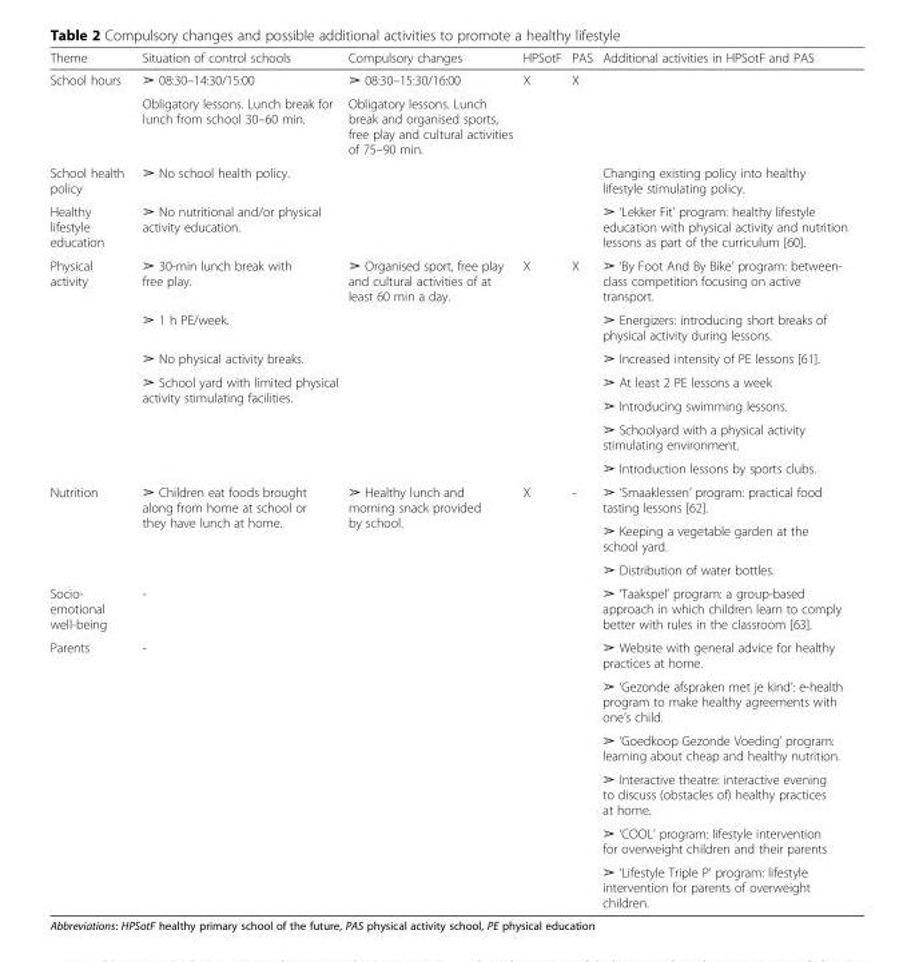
<table><thead><tr><td>Theme</td><td>Situation of control schools</td><td>Compulsory changes</td><td>HPSotF</td><td>PAS</td><td>Additional activities in HPSotF and PAS</td></tr></thead><tbody><tr><td rowspan="2">School hours</td><td>➢ 08:30–14:30/15:00</td><td>➢ 08:30–15:30/16:00</td><td>X</td><td>X</td><td></td></tr><tr><td>Obligatory lessons. Lunch break for lunch from school 30–60 min.</td><td>Obligatory lessons. Lunch break and organised sports, free play and cultural activities of 75–90 min.</td><td></td><td></td><td></td></tr><tr><td>School health policy</td><td>➢ No school health policy.</td><td></td><td></td><td></td><td>Changing existing policy into healthy lifestyle stimulating policy.</td></tr><tr><td>Healthy lifestyle education</td><td>➢ No nutritional and/or physical activity education.</td><td></td><td></td><td></td><td>➢ ‘Lekker Fit’ program: healthy lifestyle education with physical activity and nutrition lessons as part of the curriculum [60].</td></tr><tr><td rowspan="7">Physical activity</td><td>➢ 30-min lunch break with free play.</td><td>➢ Organised sport, free play and cultural activities of at least 60 min a day.</td><td>X</td><td>X</td><td>➢ ‘By Foot And By Bike’ program: between- class competition focusing on active transport.</td></tr><tr><td>➢ 1 h PE/week.</td><td></td><td></td><td></td><td>➢ Energizers: introducing short breaks of physical activity during lessons.</td></tr><tr><td>➢ No physical activity breaks.</td><td></td><td></td><td></td><td>➢ Increased intensity of PE lessons [61].</td></tr><tr><td rowspan="4">➢ School yard with limited physical activity stimulating facilities.</td><td rowspan="4"></td><td rowspan="4"></td><td rowspan="4"></td><td>➢ At least 2 PE lessons a week</td></tr><tr><td>➢ Introducing swimming lessons.</td></tr><tr><td>➢ Schoolyard with a physical activity stimulating environment.</td></tr><tr><td>➢ Introduction lessons by sports clubs.</td></tr><tr><td rowspan="3">Nutrition</td><td rowspan="3">➢ Children eat foods brought along from home at school or they have lunch at home.</td><td rowspan="3">➢ Healthy lunch and morning snack provided by school.</td><td rowspan="3">X</td><td rowspan="3">-</td><td>➢ ‘Smaaklessen’ program: practical food tasting lessons [62].</td></tr><tr><td>➢ Keeping a vegetable garden at the school yard.</td></tr><tr><td>➢ Distribution of water bottles.</td></tr><tr><td>Socio- emotional well-being</td><td>-</td><td></td><td></td><td></td><td>➢ ‘Taakspel’ program: a group-based approach in which children learn to comply better with rules in the classroom [63].</td></tr><tr><td rowspan="6">Parents</td><td rowspan="6">-</td><td rowspan="6"></td><td rowspan="6"></td><td rowspan="6"></td><td>➢ Website with general advice for healthy practices at home.</td></tr><tr><td>➢ ‘Gezonde afspraken met je kind’: e-health program to make healthy agreements with one’s child.</td></tr><tr><td>➢ ‘Goedkoop Gezonde Voeding’ program: learning about cheap and healthy nutrition.</td></tr><tr><td>➢ Interactive theatre: interactive evening to discuss (obstacles of) healthy practices at home.</td></tr><tr><td>➢ ‘COOL’ program: lifestyle intervention for overweight children and their parents</td></tr><tr><td>➢ ‘Lifestyle Triple P’ program: lifestyle intervention for parents of overweight children.</td></tr></tbody></table>